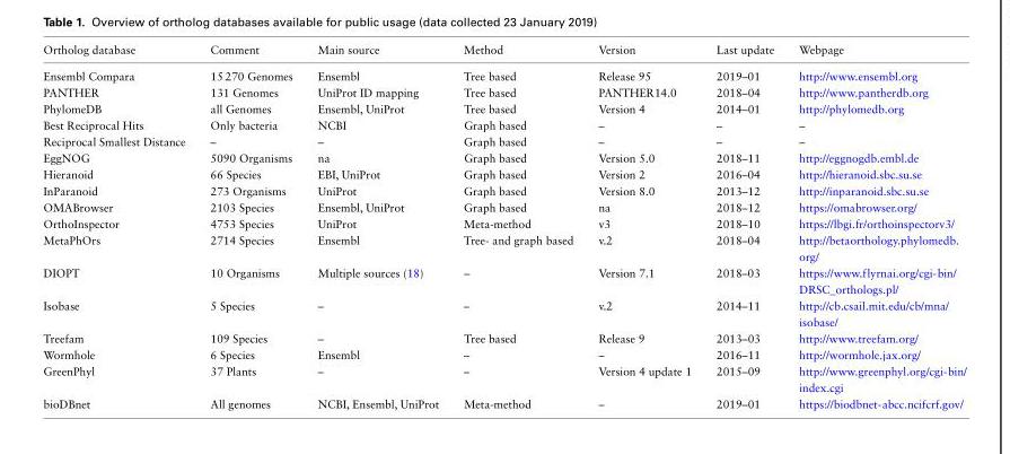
<table><thead><tr><td>Ortholog database</td><td>Comment</td><td>Main source</td><td>Method</td><td>Version</td><td>Last update</td><td>Webpage</td></tr></thead><tbody><tr><td>Ensembl Compara</td><td>15 270 Genomes</td><td>Ensembl</td><td>Tree based</td><td>Release 95</td><td>2019–01</td><td>http://www.ensembl.org</td></tr><tr><td>PANTHER</td><td>131 Genomes</td><td>UniProt ID mapping</td><td>Tree based</td><td>PANTHER14.0</td><td>2018–04</td><td>http://www.pantherdb.org</td></tr><tr><td>PhylomeDB</td><td>all Genomes</td><td>Ensembl, UniProt</td><td>Tree based</td><td>Version 4</td><td>2014–01</td><td>http://phylomedb.org</td></tr><tr><td>Best Reciprocal Hits</td><td>Only bacteria</td><td>NCBI</td><td>Graph based</td><td>–</td><td>–</td><td>–</td></tr><tr><td>Reciprocal Smallest Distance</td><td>–</td><td>–</td><td>Graph based</td><td>–</td><td>–</td><td>–</td></tr><tr><td>EggNOG</td><td>5090 Organisms</td><td>na</td><td>Graph based</td><td>Version 5.0</td><td>2018–11</td><td>http://eggnogdb.embl.de</td></tr><tr><td>Hieranoid</td><td>66 Species</td><td>EBI, UniProt</td><td>Graph based</td><td>Version 2</td><td>2016–04</td><td>http://hieranoid.sbc.su.se</td></tr><tr><td>InParanoid</td><td>273 Organisms</td><td>UniProt</td><td>Graph based</td><td>Version 8.0</td><td>2013–12</td><td>http://inparanoid.sbc.su.se</td></tr><tr><td>OMABrowser</td><td>2103 Species</td><td>Ensembl, UniProt</td><td>Graph based</td><td>na</td><td>2018–12</td><td>https://omabrowser.org/</td></tr><tr><td>OrthoInspector</td><td>4753 Species</td><td>UniProt</td><td>Meta-method</td><td>v3</td><td>2018–10</td><td>https://lbgi.fr/orthoinspectorv3/</td></tr><tr><td>MetaPhOrs</td><td>2714 Species</td><td>Ensembl</td><td>Tree- and graph based</td><td>v.2</td><td>2018–04</td><td>http://betaorthology.phylomedb. org/</td></tr><tr><td>DIOPT</td><td>10 Organisms</td><td>Multiple sources (18)</td><td>–</td><td>Version 7.1</td><td>2018–03</td><td>https://www.flyrnai.org/cgi-bin/ DRSC_orthologs.pl/</td></tr><tr><td>Isobase</td><td>5 Species</td><td>–</td><td>–</td><td>v.2</td><td>2014–11</td><td>http://cb.csail.mit.edu/cb/mna/ isobase/</td></tr><tr><td>Treefam</td><td>109 Species</td><td>–</td><td>Tree based</td><td>Release 9</td><td>2013–03</td><td>http://www.treefam.org/</td></tr><tr><td>Wormhole</td><td>6 Species</td><td>Ensembl</td><td>–</td><td>–</td><td>2016–11</td><td>http://wormhole.jax.org/</td></tr><tr><td>GreenPhyl</td><td>37 Plants</td><td>–</td><td>–</td><td>Version 4 update 1</td><td>2015–09</td><td>http://www.greenphyl.org/cgi-bin/ index.cgi</td></tr><tr><td>bioDBnet</td><td>All genomes</td><td>NCBI, Ensembl, UniProt</td><td>Meta-method</td><td>–</td><td>2019–01</td><td>https://biodbnet-abcc.ncifcrf.gov/</td></tr></tbody></table>